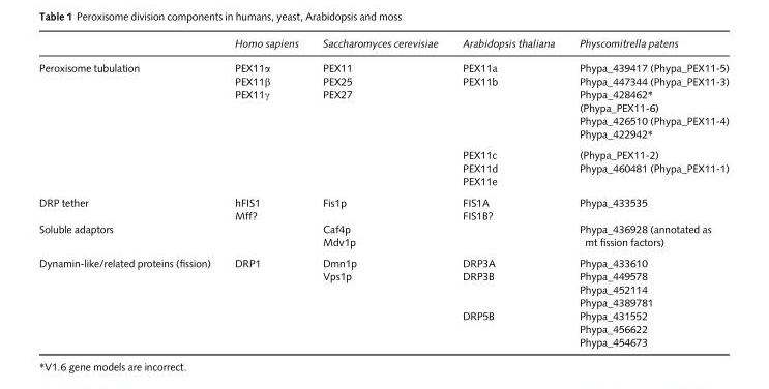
<table><thead><tr><td></td><td>Homo sapiens</td><td>Saccharomyces cerevisiae</td><td>Arabidopsis thaliana</td><td>Physcomitrella patens</td></tr></thead><tbody><tr><td rowspan="2">Peroxisome tubulation</td><td rowspan="2">PEX11α PEX11β PEX11γ</td><td rowspan="2">PEX11 PEX25 PEX27</td><td>PEX11a PEX11b</td><td>Phypa_439417 (Phypa_PEX11-5) Phypa_447344 (Phypa_PEX11-3) Phypa_428462* (Phypa_PEX11-6) Phypa_426510 (Phypa_PEX11-4) Phypa_422942*</td></tr><tr><td>PEX11c PEX11d PEX11e</td><td>(Phypa_PEX11-2) Phypa_460481 (Phypa_PEX11-1)</td></tr><tr><td>DRP tether</td><td>hFIS1 Mff?</td><td>Fis1p</td><td>FIS1A FIS1B?</td><td>Phypa_433535</td></tr><tr><td>Soluble adaptors</td><td></td><td>Caf4p Mdv1p</td><td></td><td>Phypa_436928 (annotated as mt fission factors)</td></tr><tr><td rowspan="2">Dynamin-like/related proteins (fission)</td><td rowspan="2">DRP1</td><td rowspan="2">Dmn1p Vps1p</td><td>DRP3A DRP3B</td><td>Phypa_433610 Phypa_449578 Phypa_452114 Phypa_4389781</td></tr><tr><td>DRP5B</td><td>Phypa_431552 Phypa_456622 Phypa_454673</td></tr></tbody></table>